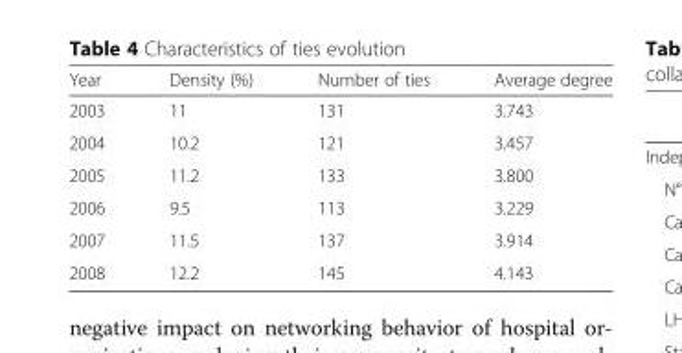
<table><thead><tr><td>Year</td><td>Density (%)</td><td>Number of ties</td><td>Average degree</td></tr></thead><tbody><tr><td>2003</td><td>11</td><td>131</td><td>3.743</td></tr><tr><td>2004</td><td>10.2</td><td>121</td><td>3.457</td></tr><tr><td>2005</td><td>11.2</td><td>133</td><td>3.800</td></tr><tr><td>2006</td><td>9.5</td><td>113</td><td>3.229</td></tr><tr><td>2007</td><td>11.5</td><td>137</td><td>3.914</td></tr><tr><td>2008</td><td>12.2</td><td>145</td><td>4.143</td></tr></tbody></table>